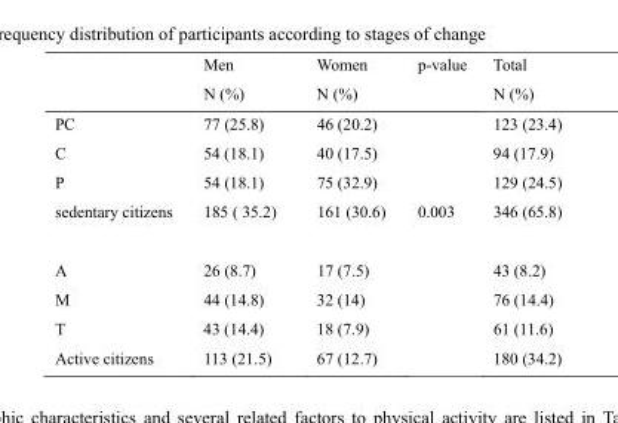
<table><thead><tr><td></td><td>Men N (%)</td><td>Women N (%)</td><td>p-value</td><td>Total N (%)</td></tr></thead><tbody><tr><td>PC</td><td>77 (25.8)</td><td>46 (20.2)</td><td></td><td>123 (23.4)</td></tr><tr><td>C</td><td>54 (18.1)</td><td>40 (17.5)</td><td></td><td>94 (17.9)</td></tr><tr><td>P</td><td>54 (18.1)</td><td>75 (32.9)</td><td></td><td>129 (24.5)</td></tr><tr><td>sedentary citizens</td><td>185 ( 35.2)</td><td>161 (30.6)</td><td>0.003</td><td>346 (65.8)</td></tr><tr><td>A</td><td>26 (8.7)</td><td>17 (7.5)</td><td></td><td>43 (8.2)</td></tr><tr><td>M</td><td>44 (14.8)</td><td>32 (14)</td><td></td><td>76 (14.4)</td></tr><tr><td>T</td><td>43 (14.4)</td><td>18 (7.9)</td><td></td><td>61 (11.6)</td></tr><tr><td>Active citizens</td><td>113 (21.5)</td><td>67 (12.7)</td><td></td><td>180 (34.2)</td></tr></tbody></table>